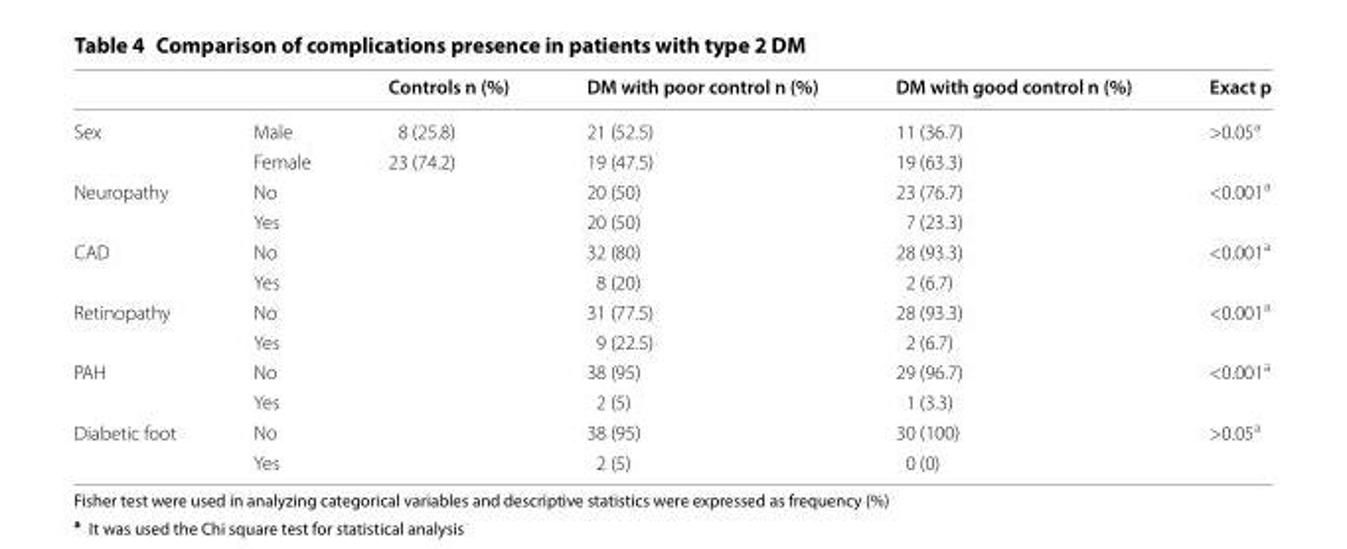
<table><thead><tr><td></td><td></td><td>Controls n (%)</td><td>DM with poor control n (%)</td><td>DM with good control n (%)</td><td>Exact p</td></tr></thead><tbody><tr><td rowspan="2">Sex</td><td>Male</td><td>8 (25.8)</td><td>21 (52.5)</td><td>11 (36.7)</td><td rowspan="2">&gt;0.05<sup>a</sup></td></tr><tr><td>Female</td><td>23 (74.2)</td><td>19 (47.5)</td><td>19 (63.3)</td></tr><tr><td rowspan="2">Neuropathy</td><td colspan="2">No</td><td>20 (50)</td><td>23 (76.7)</td><td rowspan="2">&lt;0.001<sup>a</sup></td></tr><tr><td colspan="2">Yes</td><td>20 (50)</td><td>7 (23.3)</td></tr><tr><td rowspan="2">CAD</td><td colspan="2">No</td><td>32 (80)</td><td>28 (93.3)</td><td rowspan="2">&lt;0.001<sup>a</sup></td></tr><tr><td colspan="2">Yes</td><td>8 (20)</td><td>2 (6.7)</td></tr><tr><td rowspan="2">Retinopathy</td><td colspan="2">No</td><td>31 (77.5)</td><td>28 (93.3)</td><td rowspan="2">&lt;0.001<sup>a</sup></td></tr><tr><td colspan="2">Yes</td><td>9 (22.5)</td><td>2 (6.7)</td></tr><tr><td rowspan="2">PAH</td><td colspan="2">No</td><td>38 (95)</td><td>29 (96.7)</td><td rowspan="2">&lt;0.001<sup>a</sup></td></tr><tr><td colspan="2">Yes</td><td>2 (5)</td><td>1 (3.3)</td></tr><tr><td rowspan="2">Diabetic foot</td><td colspan="2">No</td><td>38 (95)</td><td>30 (100)</td><td rowspan="2">&gt;0.05<sup>a</sup></td></tr><tr><td colspan="2">Yes</td><td>2 (5)</td><td>0 (0)</td></tr></tbody></table>